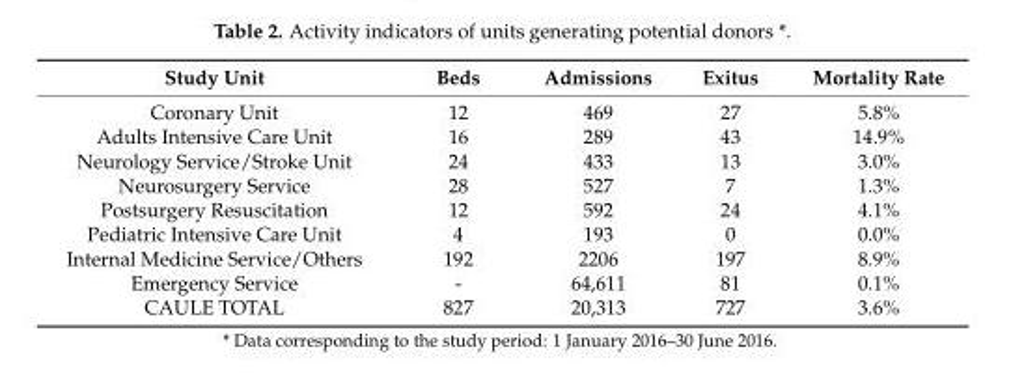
<table><thead><tr><td>Study Unit</td><td>Beds</td><td>Admissions</td><td>Exitus</td><td>Mortality Rate</td></tr></thead><tbody><tr><td>Coronary Unit</td><td>12</td><td>469</td><td>27</td><td>5.8%</td></tr><tr><td>Adults Intensive Care Unit</td><td>16</td><td>289</td><td>43</td><td>14.9%</td></tr><tr><td>Neurology Service/Stroke Unit</td><td>24</td><td>433</td><td>13</td><td>3.0%</td></tr><tr><td>Neurosurgery Service</td><td>28</td><td>527</td><td>7</td><td>1.3%</td></tr><tr><td>Postsurgery Resuscitation</td><td>12</td><td>592</td><td>24</td><td>4.1%</td></tr><tr><td>Pediatric Intensive Care Unit</td><td>4</td><td>193</td><td>0</td><td>0.0%</td></tr><tr><td>Internal Medicine Service/Others</td><td>192</td><td>2206</td><td>197</td><td>8.9%</td></tr><tr><td>Emergency Service</td><td>-</td><td>64,611</td><td>81</td><td>0.1%</td></tr><tr><td>CAULE TOTAL</td><td>827</td><td>20,313</td><td>727</td><td>3.6%</td></tr></tbody></table>